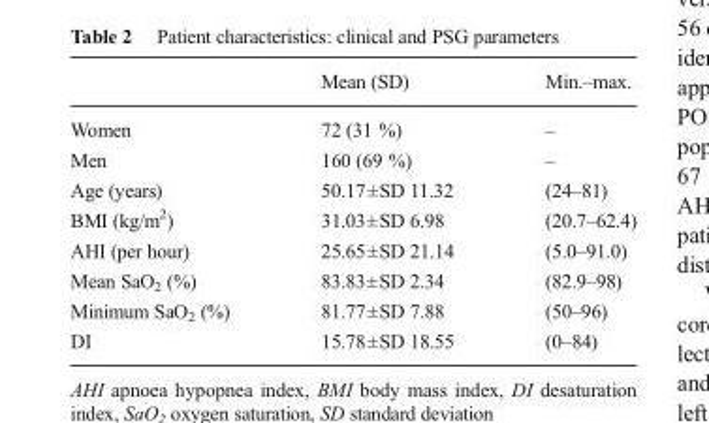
<table><thead><tr><td></td><td>Mean (SD)</td><td>Min.–max.</td></tr></thead><tbody><tr><td>Women</td><td>72 (31 %)</td><td>–</td></tr><tr><td>Men</td><td>160 (69 %)</td><td>–</td></tr><tr><td>Age (years)</td><td>50.17±SD 11.32</td><td>(24–81)</td></tr><tr><td>BMI (kg/m<sup>2</sup>)</td><td>31.03±SD 6.98</td><td>(20.7–62.4)</td></tr><tr><td>AHI (per hour)</td><td>25.65±SD 21.14</td><td>(5.0–91.0)</td></tr><tr><td>Mean SaO<sub>2</sub> (%)</td><td>83.83±SD 2.34</td><td>(82.9–98)</td></tr><tr><td>Minimum SaO<sub>2</sub> (%)</td><td>81.77±SD 7.88</td><td>(50–96)</td></tr><tr><td>DI</td><td>15.78±SD 18.55</td><td>(0–84)</td></tr></tbody></table>